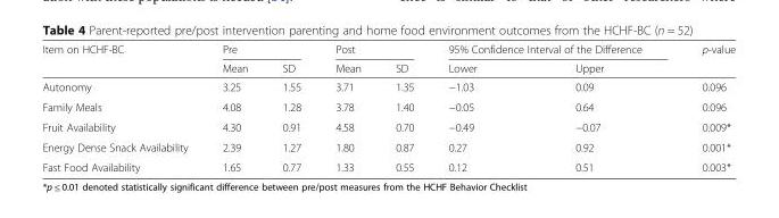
<table><thead><tr><td rowspan="2">Item on HCHF-BC</td><td colspan="2">Pre</td><td colspan="2">Post</td><td colspan="2">95% Confidence Interval of the Difference</td><td rowspan="2">p-value</td></tr><tr><td>Mean</td><td>SD</td><td>Mean</td><td>SD</td><td>Lower</td><td>Upper</td></tr></thead><tbody><tr><td>Autonomy</td><td>3.25</td><td>1.55</td><td>3.71</td><td>1.35</td><td>−1.03</td><td>0.09</td><td>0.096</td></tr><tr><td>Family Meals</td><td>4.08</td><td>1.28</td><td>3.78</td><td>1.40</td><td>−0.05</td><td>0.64</td><td>0.096</td></tr><tr><td>Fruit Availability</td><td>4.30</td><td>0.91</td><td>4.58</td><td>0.70</td><td>−0.49</td><td>−0.07</td><td>0.009*</td></tr><tr><td>Energy Dense Snack Availability</td><td>2.39</td><td>1.27</td><td>1.80</td><td>0.87</td><td>0.27</td><td>0.92</td><td>0.001*</td></tr><tr><td>Fast Food Availability</td><td>1.65</td><td>0.77</td><td>1.33</td><td>0.55</td><td>0.12</td><td>0.51</td><td>0.003*</td></tr></tbody></table>